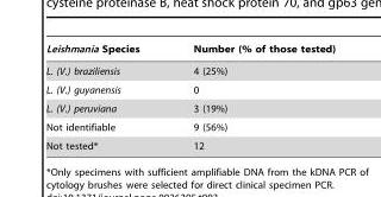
<table><thead><tr><td>Leishmania Species</td><td>Number (% of those tested)</td></tr></thead><tbody><tr><td>L. (V.) braziliensis</td><td>4 (25%)</td></tr><tr><td>L. (V.) guyanensis</td><td>0</td></tr><tr><td>L. (V.) peruviana</td><td>3 (19%)</td></tr><tr><td>Not identifiable</td><td>9 (56%)</td></tr><tr><td>Not tested*</td><td>12</td></tr></tbody></table>